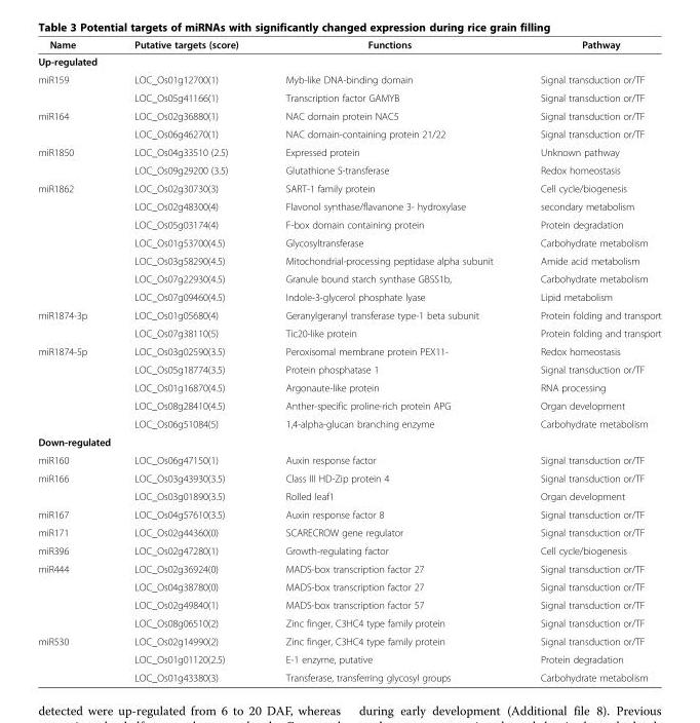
<table><thead><tr><td>Name</td><td>Putative targets (score)</td><td>Functions</td><td>Pathway</td></tr></thead><tbody><tr><td colspan="4">Up-regulated</td></tr><tr><td rowspan="2">miR159</td><td>LOC_Os01g12700(1)</td><td>Myb-like DNA-binding domain</td><td>Signal transduction or/TF</td></tr><tr><td>LOC_Os05g41166(1)</td><td>Transcription factor GAMYB</td><td>Signal transduction or/TF</td></tr><tr><td rowspan="2">miR164</td><td>LOC_Os02g36880(1)</td><td>NAC domain protein NAC5</td><td>Signal transduction or/TF</td></tr><tr><td>LOC_Os06g46270(1)</td><td>NAC domain-containing protein 21/22</td><td>Signal transduction or/TF</td></tr><tr><td rowspan="2">miR1850</td><td>LOC_Os04g33510 (2.5)</td><td>Expressed protein</td><td>Unknown pathway</td></tr><tr><td>LOC_Os09g29200 (3.5)</td><td>Glutathione S-transferase</td><td>Redox homeostasis</td></tr><tr><td rowspan="7">miR1862</td><td>LOC_Os02g30730(3)</td><td>SART-1 family protein</td><td>Cell cycle/biogenesis</td></tr><tr><td>LOC_Os02g48300(4)</td><td>Flavonol synthase/flavanone 3- hydroxylase</td><td>secondary metabolism</td></tr><tr><td>LOC_Os05g03174(4)</td><td>F-box domain containing protein</td><td>Protein degradation</td></tr><tr><td>LOC_Os01g53700(4.5)</td><td>Glycosyltransferase</td><td>Carbohydrate metabolism</td></tr><tr><td>LOC_Os03g58290(4.5)</td><td>Mitochondrial-processing peptidase alpha subunit</td><td>Amide acid metabolism</td></tr><tr><td>LOC_Os07g22930(4.5)</td><td>Granule bound starch synthase GBSS1b,</td><td>Carbohydrate metabolism</td></tr><tr><td>LOC_Os07g09460(4.5)</td><td>Indole-3-glycerol phosphate lyase</td><td>Lipid metabolism</td></tr><tr><td rowspan="2">miR1874-3p</td><td>LOC_Os01g05680(4)</td><td>Geranylgeranyl transferase type-1 beta subunit</td><td>Protein folding and transport</td></tr><tr><td>LOC_Os07g38110(5)</td><td>Tic20-like protein</td><td>Protein folding and transport</td></tr><tr><td rowspan="5">miR1874-5p</td><td>LOC_Os03g02590(3.5)</td><td>Peroxisomal membrane protein PEX11-</td><td>Redox homeostasis</td></tr><tr><td>LOC_Os05g18774(3.5)</td><td>Protein phosphatase 1</td><td>Signal transduction or/TF</td></tr><tr><td>LOC_Os01g16870(4.5)</td><td>Argonaute-like protein</td><td>RNA processing</td></tr><tr><td>LOC_Os08g28410(4.5)</td><td>Anther-specific proline-rich protein APG</td><td>Organ development</td></tr><tr><td>LOC_Os06g51084(5)</td><td>1,4-alpha-glucan branching enzyme</td><td>Carbohydrate metabolism</td></tr><tr><td colspan="4">Down-regulated</td></tr><tr><td>miR160</td><td>LOC_Os06g47150(1)</td><td>Auxin response factor</td><td>Signal transduction or/TF</td></tr><tr><td rowspan="2">miR166</td><td>LOC_Os03g43930(3.5)</td><td>Class III HD-Zip protein 4</td><td>Signal transduction or/TF</td></tr><tr><td>LOC_Os03g01890(3.5)</td><td>Rolled leaf1</td><td>Organ development</td></tr><tr><td>miR167</td><td>LOC_Os04g57610(3.5)</td><td>Auxin response factor 8</td><td>Signal transduction or/TF</td></tr><tr><td>miR171</td><td>LOC_Os02g44360(0)</td><td>SCARECROW gene regulator</td><td>Signal transduction or/TF</td></tr><tr><td>miR396</td><td>LOC_Os02g47280(1)</td><td>Growth-regulating factor</td><td>Cell cycle/biogenesis</td></tr><tr><td rowspan="4">miR444</td><td>LOC_Os02g36924(0)</td><td>MADS-box transcription factor 27</td><td>Signal transduction or/TF</td></tr><tr><td>LOC_Os04g38780(0)</td><td>MADS-box transcription factor 27</td><td>Signal transduction or/TF</td></tr><tr><td>LOC_Os02g49840(1)</td><td>MADS-box transcription factor 57</td><td>Signal transduction or/TF</td></tr><tr><td>LOC_Os08g06510(2)</td><td>Zinc finger, C3HC4 type family protein</td><td>Signal transduction or/TF</td></tr><tr><td rowspan="3">miR530</td><td>LOC_Os02g14990(2)</td><td>Zinc finger, C3HC4 type family protein</td><td>Signal transduction or/TF</td></tr><tr><td>LOC_Os01g01120(2.5)</td><td>E-1 enzyme, putative</td><td>Protein degradation</td></tr><tr><td>LOC_Os01g43380(3)</td><td>Transferase, transferring glycosyl groups</td><td>Carbohydrate metabolism</td></tr></tbody></table>